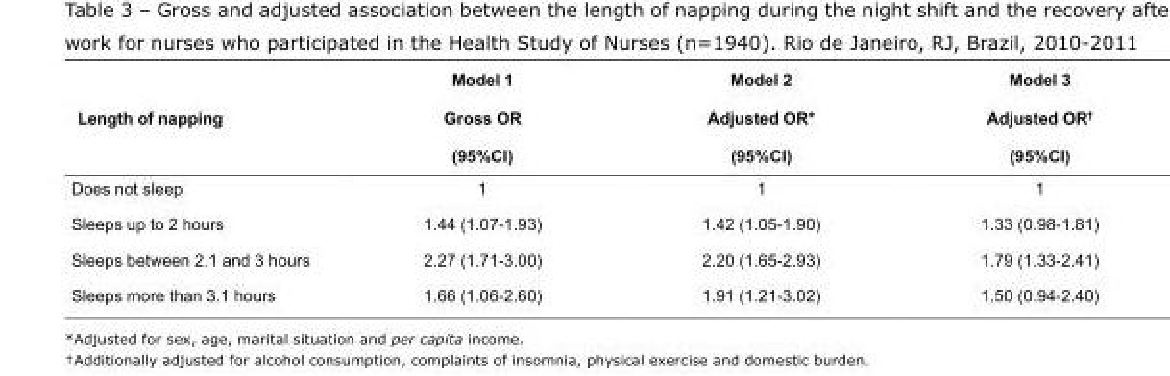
<table><thead><tr><td rowspan="3">Length of napping</td><td rowspan="3">Model 1 Gross OR (95%CI)</td><td rowspan="3">Model 2 Adjusted OR* (95%CI)</td><td rowspan="3">Model 3 Adjusted OR<sup>†</sup> (95%CI)</td></tr><tr></tr><tr></tr></thead><tbody><tr><td>Does not sleep</td><td>1</td><td>1</td><td>1</td></tr><tr><td>Sleeps up to 2 hours</td><td>1.44 (1.07-1.93)</td><td>1.42 (1.05-1.90)</td><td>1.33 (0.98-1.81)</td></tr><tr><td>Sleeps between 2.1 and 3 hours</td><td>2.27 (1.71-3.00)</td><td>2.20 (1.65-2.93)</td><td>1.79 (1.33-2.41)</td></tr><tr><td>Sleeps more than 3.1 hours</td><td>1.66 (1.06-2.60)</td><td>1.91 (1.21-3.02)</td><td>1.50 (0.94-2.40)</td></tr></tbody></table>